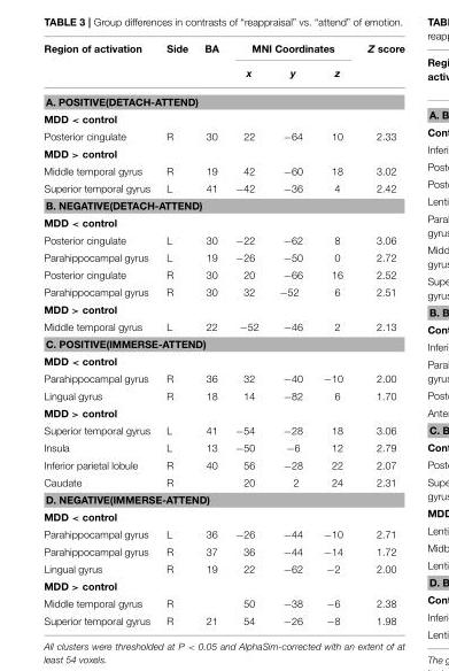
<table><thead><tr><td rowspan="2">Region of activation</td><td rowspan="2">Side</td><td rowspan="2">BA</td><td colspan="3">MNI Coordinates</td><td rowspan="2">Z score</td></tr><tr><td>x</td><td>y</td><td>z</td></tr></thead><tbody><tr><td colspan="7">A. POSITIVE(DETACH-ATTEND)</td></tr><tr><td colspan="7">MDD &lt; control</td></tr><tr><td>Posterior cingulate</td><td>R</td><td>30</td><td>22</td><td>−64</td><td>10</td><td>2.33</td></tr><tr><td colspan="7">MDD &gt; control</td></tr><tr><td>Middle temporal gyrus</td><td>R</td><td>19</td><td>42</td><td>−60</td><td>18</td><td>3.02</td></tr><tr><td>Superior temporal gyrus</td><td>L</td><td>41</td><td>−42</td><td>−36</td><td>4</td><td>2.42</td></tr><tr><td colspan="7">B. NEGATIVE(DETACH-ATTEND)</td></tr><tr><td colspan="7">MDD &lt; control</td></tr><tr><td>Posterior cingulate</td><td>L</td><td>30</td><td>−22</td><td>−62</td><td>8</td><td>3.06</td></tr><tr><td>Parahippocampal gyrus</td><td>L</td><td>19</td><td>−26</td><td>−50</td><td>0</td><td>2.72</td></tr><tr><td>Posterior cingulate</td><td>R</td><td>30</td><td>20</td><td>−66</td><td>16</td><td>2.52</td></tr><tr><td>Parahippocampal gyrus</td><td>R</td><td>30</td><td>32</td><td>−52</td><td>6</td><td>2.51</td></tr><tr><td colspan="7">MDD &gt; control</td></tr><tr><td>Middle temporal gyrus</td><td>L</td><td>22</td><td>−52</td><td>−46</td><td>2</td><td>2.13</td></tr><tr><td colspan="7">C. POSITIVE(IMMERSE-ATTEND)</td></tr><tr><td colspan="7">MDD &lt; control</td></tr><tr><td>Parahippocampal gyrus</td><td>R</td><td>36</td><td>32</td><td>−40</td><td>−10</td><td>2.00</td></tr><tr><td>Lingual gyrus</td><td>R</td><td>18</td><td>14</td><td>−82</td><td>6</td><td>1.70</td></tr><tr><td colspan="7">MDD &gt; control</td></tr><tr><td>Superior temporal gyrus</td><td>L</td><td>41</td><td>−54</td><td>−28</td><td>18</td><td>3.06</td></tr><tr><td>Insula</td><td>L</td><td>13</td><td>−50</td><td>−6</td><td>12</td><td>2.79</td></tr><tr><td>Inferior parietal lobule</td><td>R</td><td>40</td><td>56</td><td>−28</td><td>22</td><td>2.07</td></tr><tr><td>Caudate</td><td>R</td><td></td><td>20</td><td>2</td><td>24</td><td>2.31</td></tr><tr><td colspan="7">D. NEGATIVE(IMMERSE-ATTEND)</td></tr><tr><td colspan="7">MDD &lt; control</td></tr><tr><td>Parahippocampal gyrus</td><td>L</td><td>36</td><td>−26</td><td>−44</td><td>−10</td><td>2.71</td></tr><tr><td>Parahippocampal gyrus</td><td>R</td><td>37</td><td>36</td><td>−44</td><td>−14</td><td>1.72</td></tr><tr><td>Lingual gyrus</td><td>R</td><td>19</td><td>22</td><td>−62</td><td>−2</td><td>2.00</td></tr><tr><td colspan="7">MDD &gt; control</td></tr><tr><td>Middle temporal gyrus</td><td>R</td><td></td><td>50</td><td>−38</td><td>−6</td><td>2.38</td></tr><tr><td>Superior temporal gyrus</td><td>R</td><td>21</td><td>54</td><td>−26</td><td>−8</td><td>1.98</td></tr></tbody></table>